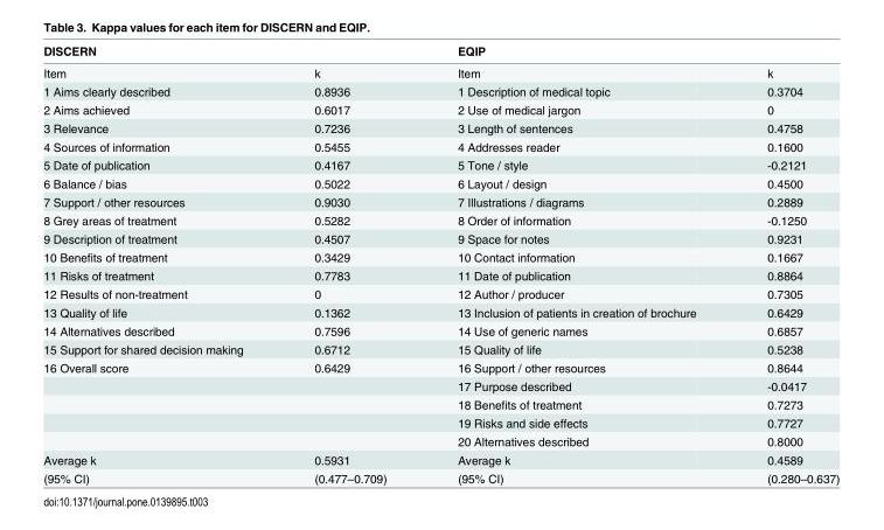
<table><thead><tr><td colspan="2">DISCERN</td><td colspan="2">EQIP</td></tr><tr><td>Item</td><td>k</td><td>Item</td><td>k</td></tr></thead><tbody><tr><td>1 Aims clearly described</td><td>0.8936</td><td>1 Description of medical topic</td><td>0.3704</td></tr><tr><td>2 Aims achieved</td><td>0.6017</td><td>2 Use of medical jargon</td><td>0</td></tr><tr><td>3 Relevance</td><td>0.7236</td><td>3 Length of sentences</td><td>0.4758</td></tr><tr><td>4 Sources of information</td><td>0.5455</td><td>4 Addresses reader</td><td>0.1600</td></tr><tr><td>5 Date of publication</td><td>0.4167</td><td>5 Tone / style</td><td>-0.2121</td></tr><tr><td>6 Balance / bias</td><td>0.5022</td><td>6 Layout / design</td><td>0.4500</td></tr><tr><td>7 Support / other resources</td><td>0.9030</td><td>7 Illustrations / diagrams</td><td>0.2889</td></tr><tr><td>8 Grey areas of treatment</td><td>0.5282</td><td>8 Order of information</td><td>-0.1250</td></tr><tr><td>9 Description of treatment</td><td>0.4507</td><td>9 Space for notes</td><td>0.9231</td></tr><tr><td>10 Benefits of treatment</td><td>0.3429</td><td>10 Contact information</td><td>0.1667</td></tr><tr><td>11 Risks of treatment</td><td>0.7783</td><td>11 Date of publication</td><td>0.8864</td></tr><tr><td>12 Results of non-treatment</td><td>0</td><td>12 Author / producer</td><td>0.7305</td></tr><tr><td>13 Quality of life</td><td>0.1362</td><td>13 Inclusion of patients in creation of brochure</td><td>0.6429</td></tr><tr><td>14 Alternatives described</td><td>0.7596</td><td>14 Use of generic names</td><td>0.6857</td></tr><tr><td>15 Support for shared decision making</td><td>0.6712</td><td>15 Quality of life</td><td>0.5238</td></tr><tr><td rowspan="5">16 Overall score</td><td>0.6429</td><td>16 Support / other resources</td><td>0.8644</td></tr><tr><td></td><td>17 Purpose described</td><td>-0.0417</td></tr><tr><td></td><td>18 Benefits of treatment</td><td>0.7273</td></tr><tr><td></td><td>19 Risks and side effects</td><td>0.7727</td></tr><tr><td></td><td>20 Alternatives described</td><td>0.8000</td></tr><tr><td>Average k</td><td>0.5931</td><td>Average k</td><td>0.4589</td></tr><tr><td>(95% CI)</td><td>(0.477–0.709)</td><td>(95% CI)</td><td>(0.280–0.637)</td></tr></tbody></table>